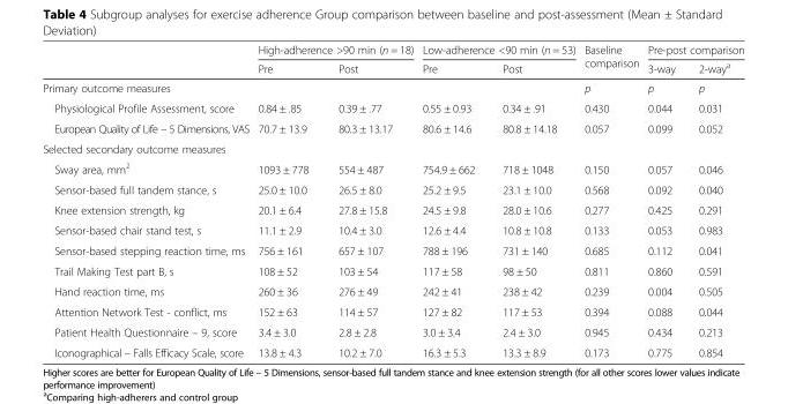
<table><thead><tr><td rowspan="2"></td><td colspan="2">High-adherence &gt;90 min (n = 18)</td><td colspan="2">Low-adherence &lt;90 min (n = 53)</td><td rowspan="2">Baseline comparison</td><td colspan="2">Pre-post comparison</td></tr><tr><td>Pre</td><td>Post</td><td>Pre</td><td>Post</td><td>3-way</td><td>2-way<sup>a</sup></td></tr></thead><tbody><tr><td>Primary outcome measures</td><td></td><td></td><td></td><td></td><td>p</td><td>p</td><td>p</td></tr><tr><td>Physiological Profile Assessment, score</td><td>0.84 ± .85</td><td>0.39 ± .77</td><td>0.55 ± 0.93</td><td>0.34 ± .91</td><td>0.430</td><td>0.044</td><td>0.031</td></tr><tr><td>European Quality of Life – 5 Dimensions, VAS</td><td>70.7 ± 13.9</td><td>80.3 ± 13.17</td><td>80.6 ± 14.6</td><td>80.8 ± 14.18</td><td>0.057</td><td>0.099</td><td>0.052</td></tr><tr><td colspan="8">Selected secondary outcome measures</td></tr><tr><td>Sway area, mm<sup>2</sup></td><td>1093 ± 778</td><td>554 ± 487</td><td>754.9 ± 662</td><td>718 ± 1048</td><td>0.150</td><td>0.057</td><td>0.046</td></tr><tr><td>Sensor-based full tandem stance, s</td><td>25.0 ± 10.0</td><td>26.5 ± 8.0</td><td>25.2 ± 9.5</td><td>23.1 ± 10.0</td><td>0.568</td><td>0.092</td><td>0.040</td></tr><tr><td>Knee extension strength, kg</td><td>20.1 ± 6.4</td><td>27.8 ± 15.8</td><td>24.5 ± 9.8</td><td>28.0 ± 10.6</td><td>0.277</td><td>0.425</td><td>0.291</td></tr><tr><td>Sensor-based chair stand test, s</td><td>11.1 ± 2.9</td><td>10.4 ± 3.0</td><td>12.6 ± 4.4</td><td>10.8 ± 10.8</td><td>0.133</td><td>0.053</td><td>0.983</td></tr><tr><td>Sensor-based stepping reaction time, ms</td><td>756 ± 161</td><td>657 ± 107</td><td>788 ± 196</td><td>731 ± 140</td><td>0.685</td><td>0.112</td><td>0.041</td></tr><tr><td>Trail Making Test part B, s</td><td>108 ± 52</td><td>103 ± 54</td><td>117 ± 58</td><td>98 ± 50</td><td>0.811</td><td>0.860</td><td>0.591</td></tr><tr><td>Hand reaction time, ms</td><td>260 ± 36</td><td>276 ± 49</td><td>242 ± 41</td><td>238 ± 42</td><td>0.239</td><td>0.004</td><td>0.505</td></tr><tr><td>Attention Network Test - conflict, ms</td><td>152 ± 63</td><td>114 ± 57</td><td>127 ± 82</td><td>117 ± 53</td><td>0.394</td><td>0.088</td><td>0.044</td></tr><tr><td>Patient Health Questionnaire – 9, score</td><td>3.4 ± 3.0</td><td>2.8 ± 2.8</td><td>3.0 ± 3.4</td><td>2.4 ± 3.0</td><td>0.945</td><td>0.434</td><td>0.213</td></tr><tr><td>Iconographical – Falls Efficacy Scale, score</td><td>13.8 ± 4.3</td><td>10.2 ± 7.0</td><td>16.3 ± 5.3</td><td>13.3 ± 8.9</td><td>0.173</td><td>0.775</td><td>0.854</td></tr></tbody></table>